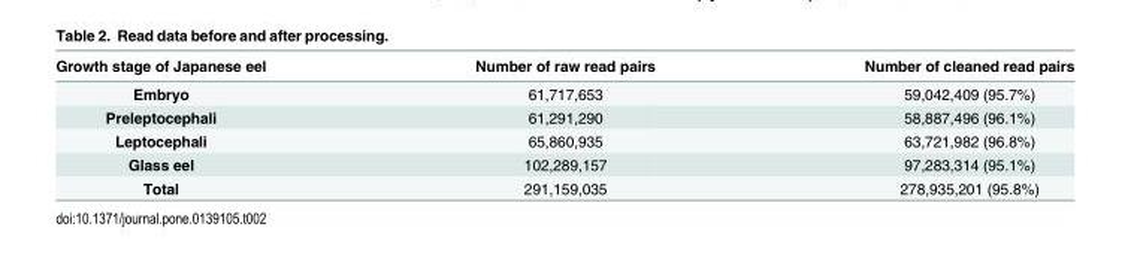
<table><thead><tr><td>Growth stage of Japanese eel</td><td>Number of raw read pairs</td><td>Number of cleaned read pairs</td></tr></thead><tbody><tr><td>Embryo</td><td>61,717,653</td><td>59,042,409 (95.7%)</td></tr><tr><td>Preleptocephali</td><td>61,291,290</td><td>58,887,496 (96.1%)</td></tr><tr><td>Leptocephali</td><td>65,860,935</td><td>63,721,982 (96.8%)</td></tr><tr><td>Glass eel</td><td>102,289,157</td><td>97,283,314 (95.1%)</td></tr><tr><td>Total</td><td>291,159,035</td><td>278,935,201 (95.8%)</td></tr></tbody></table>